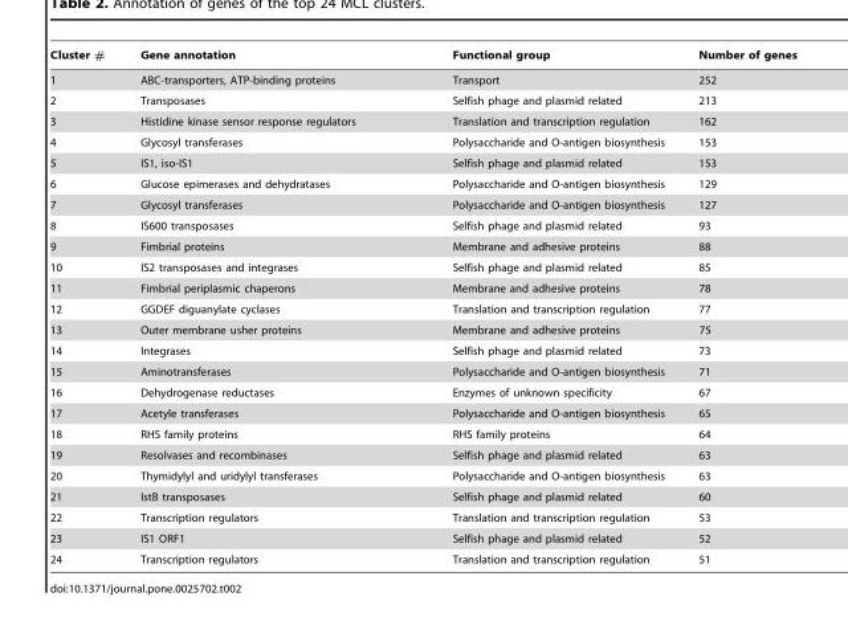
<table><thead><tr><td>Cluster #</td><td>Gene annotation</td><td>Functional group</td><td>Number of genes</td></tr></thead><tbody><tr><td>1</td><td>ABC-transporters, ATP-binding proteins</td><td>Transport</td><td>252</td></tr><tr><td>2</td><td>Transposases</td><td>Selfish phage and plasmid related</td><td>213</td></tr><tr><td>3</td><td>Histidine kinase sensor response regulators</td><td>Translation and transcription regulation</td><td>162</td></tr><tr><td>4</td><td>Glycosyl transferases</td><td>Polysaccharide and O-antigen biosynthesis</td><td>153</td></tr><tr><td>5</td><td>IS1, iso-IS1</td><td>Selfish phage and plasmid related</td><td>153</td></tr><tr><td>6</td><td>Glucose epimerases and dehydratases</td><td>Polysaccharide and O-antigen biosynthesis</td><td>129</td></tr><tr><td>7</td><td>Glycosyl transferases</td><td>Polysaccharide and O-antigen biosynthesis</td><td>127</td></tr><tr><td>8</td><td>IS600 transposases</td><td>Selfish phage and plasmid related</td><td>93</td></tr><tr><td>9</td><td>Fimbrial proteins</td><td>Membrane and adhesive proteins</td><td>88</td></tr><tr><td>10</td><td>IS2 transposases and integrases</td><td>Selfish phage and plasmid related</td><td>85</td></tr><tr><td>11</td><td>Fimbrial periplasmic chaperons</td><td>Membrane and adhesive proteins</td><td>78</td></tr><tr><td>12</td><td>GGDEF diguanylate cyclases</td><td>Translation and transcription regulation</td><td>77</td></tr><tr><td>13</td><td>Outer membrane usher proteins</td><td>Membrane and adhesive proteins</td><td>75</td></tr><tr><td>14</td><td>Integrases</td><td>Selfish phage and plasmid related</td><td>73</td></tr><tr><td>15</td><td>Aminotransferases</td><td>Polysaccharide and O-antigen biosynthesis</td><td>71</td></tr><tr><td>16</td><td>Dehydrogenase reductases</td><td>Enzymes of unknown specificity</td><td>67</td></tr><tr><td>17</td><td>Acetyle transferases</td><td>Polysaccharide and O-antigen biosynthesis</td><td>65</td></tr><tr><td>18</td><td>RHS family proteins</td><td>RHS family proteins</td><td>64</td></tr><tr><td>19</td><td>Resolvases and recombinases</td><td>Selfish phage and plasmid related</td><td>63</td></tr><tr><td>20</td><td>Thymidylyl and uridylyl transferases</td><td>Polysaccharide and O-antigen biosynthesis</td><td>63</td></tr><tr><td>21</td><td>IstB transposases</td><td>Selfish phage and plasmid related</td><td>60</td></tr><tr><td>22</td><td>Transcription regulators</td><td>Translation and transcription regulation</td><td>53</td></tr><tr><td>23</td><td>IS1 ORF1</td><td>Selfish phage and plasmid related</td><td>52</td></tr><tr><td>24</td><td>Transcription regulators</td><td>Translation and transcription regulation</td><td>51</td></tr></tbody></table>